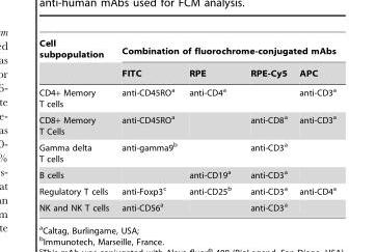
<table><thead><tr><td rowspan="2">Cell subpopulation</td><td colspan="4">Combination of fluorochrome-conjugated mAbs</td></tr><tr><td>FITC</td><td>RPE</td><td>RPE-Cy5</td><td>APC</td></tr></thead><tbody><tr><td>CD4+ Memory T cells</td><td>anti-CD45RO<sup>a</sup></td><td>anti-CD4<sup>a</sup></td><td></td><td>anti-CD3<sup>a</sup></td></tr><tr><td>CD8+ Memory T Cells</td><td>anti-CD45RO<sup>a</sup></td><td></td><td>anti-CD8<sup>a</sup></td><td>anti-CD3<sup>a</sup></td></tr><tr><td>Gamma delta T cells</td><td>anti-gamma9<sup>b</sup></td><td></td><td>anti-CD3<sup>a</sup></td><td></td></tr><tr><td>B cells</td><td></td><td>anti-CD19<sup>a</sup></td><td>anti-CD3<sup>a</sup></td><td></td></tr><tr><td>Regulatory T cells</td><td>anti-Foxp3<sup>c</sup></td><td>anti-CD25<sup>b</sup></td><td>anti-CD3<sup>a</sup></td><td>anti-CD4<sup>a</sup></td></tr><tr><td>NK and NK T cells</td><td>anti-CD56<sup>a</sup></td><td></td><td>anti-CD3<sup>a</sup></td><td></td></tr></tbody></table>